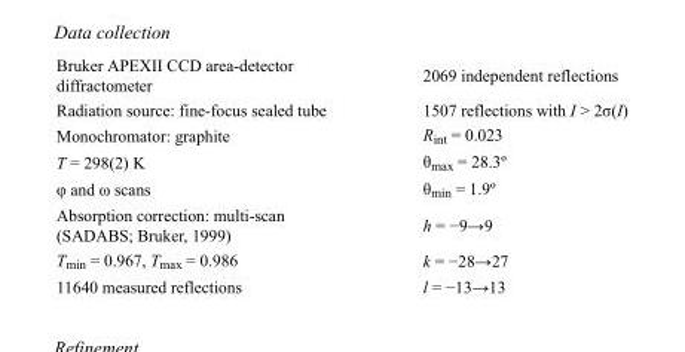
<table><tbody><tr><td>Bruker APEXII CCD area-detector diffractometer</td><td>2069 independent reflections</td></tr><tr><td>Radiation source: fine-focus sealed tube</td><td>1507 reflections with I &gt; 2σ(I)</td></tr><tr><td>Monochromator: graphite</td><td>R<sub>int</sub> = 0.023</td></tr><tr><td>T = 298(2) K</td><td>θ<sub>max</sub> = 28.3º</td></tr><tr><td>φ and ω scans</td><td>θ<sub>min</sub> = 1.9º</td></tr><tr><td>Absorption correction: multi-scan (SADABS; Bruker, 1999)</td><td>h = −9→9</td></tr><tr><td>T<sub>min</sub> = 0.967, T<sub>max</sub> = 0.986</td><td>k = −28→27</td></tr><tr><td>11640 measured reflections</td><td>l = −13→13</td></tr></tbody></table>